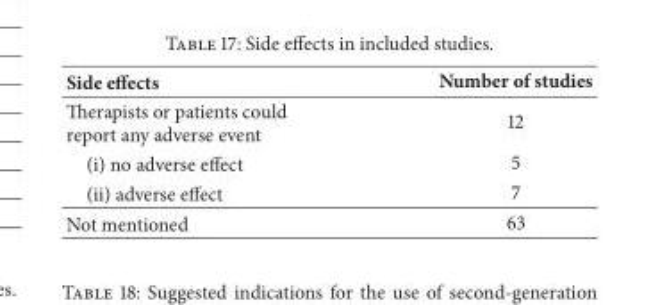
<table><thead><tr><td>Side effects</td><td>Number of studies</td></tr></thead><tbody><tr><td>Therapists or patients could report any adverse event</td><td>12</td></tr><tr><td>(i) no adverse effect</td><td>5</td></tr><tr><td>(ii) adverse effect</td><td>7</td></tr><tr><td>Not mentioned</td><td>63</td></tr></tbody></table>